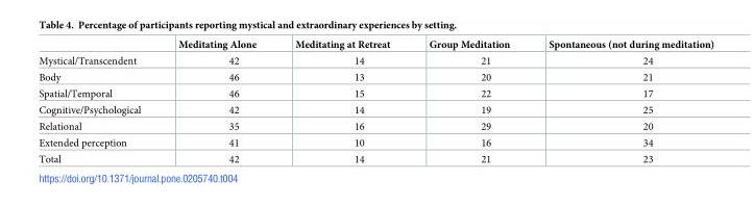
<table><thead><tr><td></td><td>Meditating Alone</td><td>Meditating at Retreat</td><td>Group Meditation</td><td>Spontaneous (not during meditation)</td></tr></thead><tbody><tr><td>Mystical/Transcendent</td><td>42</td><td>14</td><td>21</td><td>24</td></tr><tr><td>Body</td><td>46</td><td>13</td><td>20</td><td>21</td></tr><tr><td>Spatial/Temporal</td><td>46</td><td>15</td><td>22</td><td>17</td></tr><tr><td>Cognitive/Psychological</td><td>42</td><td>14</td><td>19</td><td>25</td></tr><tr><td>Relational</td><td>35</td><td>16</td><td>29</td><td>20</td></tr><tr><td>Extended perception</td><td>41</td><td>10</td><td>16</td><td>34</td></tr><tr><td>Total</td><td>42</td><td>14</td><td>21</td><td>23</td></tr></tbody></table>